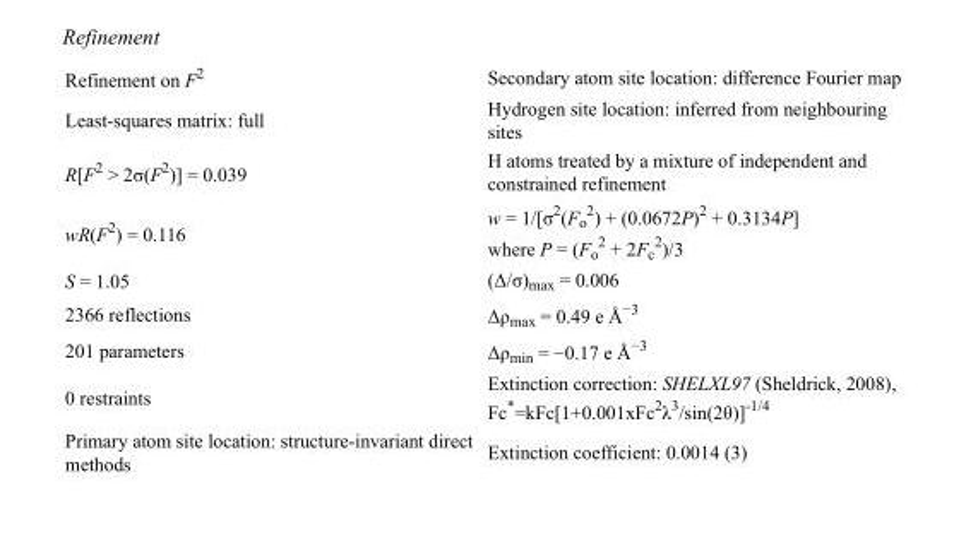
<table><tbody><tr><td>Refinement on F<sup>2</sup></td><td>Secondary atom site location: difference Fourier map</td></tr><tr><td>Least-squares matrix: full</td><td>Hydrogen site location: inferred from neighbouring sites</td></tr><tr><td>R[F<sup>2</sup> &gt; 2σ(F<sup>2</sup>)] = 0.039</td><td>H atoms treated by a mixture of independent and constrained refinement</td></tr><tr><td>wR(F<sup>2</sup>) = 0.116</td><td>w = 1/[σ<sup>2</sup>(F<sub>o</sub> <sup>2</sup>) + (0.0672P)<sup>2</sup> + 0.3134P] where P = (F<sub>o</sub> <sup>2</sup> + 2F<sub>c</sub> <sup>2</sup>)/3</td></tr><tr><td>S = 1.05</td><td>(Δ/σ)<sub>max</sub> = 0.006</td></tr><tr><td>2366 reflections</td><td>Δρ<sub>max</sub> = 0.49 e Å<sup>−3</sup></td></tr><tr><td>201 parameters</td><td>Δρ<sub>min</sub> = −0.17 e Å<sup>−3</sup></td></tr><tr><td>0 restraints</td><td>Extinction correction: SHELXL97 (Sheldrick, 2008), Fc*=kFc[1+0.001xFc<sup>2</sup>λ<sup>3</sup>/sin(2θ)]<sup>-1/4</sup></td></tr><tr><td>Primary atom site location: structure-invariant direct methods</td><td>Extinction coefficient: 0.0014 (3)</td></tr></tbody></table>